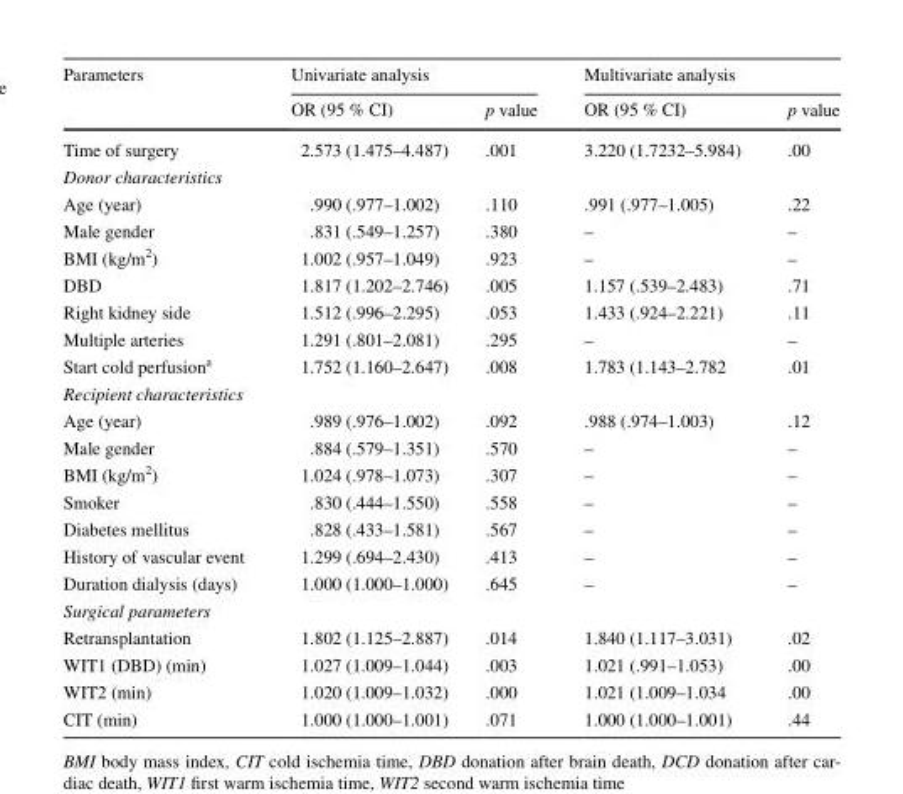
<table><thead><tr><td rowspan="2">Parameters</td><td colspan="2">Univariate analysis</td><td colspan="2">Multivariate analysis</td></tr><tr><td>OR (95 % CI)</td><td>p value</td><td>OR (95 % CI)</td><td>p value</td></tr></thead><tbody><tr><td>Time of surgery</td><td>2.573 (1.475–4.487)</td><td>.001</td><td>3.220 (1.7232–5.984)</td><td>.00</td></tr><tr><td colspan="5">Donor characteristics</td></tr><tr><td>Age (year)</td><td>.990 (.977–1.002)</td><td>.110</td><td>.991 (.977–1.005)</td><td>.22</td></tr><tr><td>Male gender</td><td>.831 (.549–1.257)</td><td>.380</td><td>–</td><td>–</td></tr><tr><td>BMI (kg/m<sup>2</sup>)</td><td>1.002 (.957–1.049)</td><td>.923</td><td>–</td><td>–</td></tr><tr><td>DBD</td><td>1.817 (1.202–2.746)</td><td>.005</td><td>1.157 (.539–2.483)</td><td>.71</td></tr><tr><td>Right kidney side</td><td>1.512 (.996–2.295)</td><td>.053</td><td>1.433 (.924–2.221)</td><td>.11</td></tr><tr><td>Multiple arteries</td><td>1.291 (.801–2.081)</td><td>.295</td><td>–</td><td>–</td></tr><tr><td>Start cold perfusion<sup>a</sup></td><td>1.752 (1.160–2.647)</td><td>.008</td><td>1.783 (1.143–2.782</td><td>.01</td></tr><tr><td colspan="5">Recipient characteristics</td></tr><tr><td>Age (year)</td><td>.989 (.976–1.002)</td><td>.092</td><td>.988 (.974–1.003)</td><td>.12</td></tr><tr><td>Male gender</td><td>.884 (.579–1.351)</td><td>.570</td><td>–</td><td>–</td></tr><tr><td>BMI (kg/m<sup>2</sup>)</td><td>1.024 (.978–1.073)</td><td>.307</td><td>–</td><td>–</td></tr><tr><td>Smoker</td><td>.830 (.444–1.550)</td><td>.558</td><td>–</td><td>–</td></tr><tr><td>Diabetes mellitus</td><td>.828 (.433–1.581)</td><td>.567</td><td>–</td><td>–</td></tr><tr><td>History of vascular event</td><td>1.299 (.694–2.430)</td><td>.413</td><td>–</td><td>–</td></tr><tr><td>Duration dialysis (days)</td><td>1.000 (1.000–1.000)</td><td>.645</td><td>–</td><td>–</td></tr><tr><td colspan="5">Surgical parameters</td></tr><tr><td>Retransplantation</td><td>1.802 (1.125–2.887)</td><td>.014</td><td>1.840 (1.117–3.031)</td><td>.02</td></tr><tr><td>WIT1 (DBD) (min)</td><td>1.027 (1.009–1.044)</td><td>.003</td><td>1.021 (.991–1.053)</td><td>.00</td></tr><tr><td>WIT2 (min)</td><td>1.020 (1.009–1.032)</td><td>.000</td><td>1.021 (1.009–1.034</td><td>.00</td></tr><tr><td>CIT (min)</td><td>1.000 (1.000–1.001)</td><td>.071</td><td>1.000 (1.000–1.001)</td><td>.44</td></tr></tbody></table>